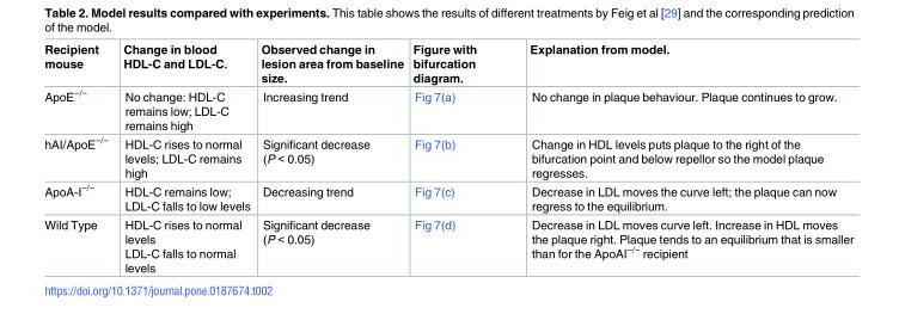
<table><thead><tr><td>Recipient mouse</td><td>Change in blood HDL-C and LDL-C.</td><td>Observed change in lesion area from baseline size.</td><td>Figure with bifurcation diagram.</td><td>Explanation from model.</td></tr></thead><tbody><tr><td>ApoE<sup>−/−</sup></td><td>No change: HDL-C remains low; LDL-C remains high</td><td>Increasing trend</td><td>Fig 7(a)</td><td>No change in plaque behaviour. Plaque continues to grow.</td></tr><tr><td>hAI/ApoE<sup>−/−</sup></td><td>HDL-C rises to normal levels; LDL-C remains high</td><td>Significant decrease (P &lt; 0.05)</td><td>Fig 7(b)</td><td>Change in HDL levels puts plaque to the right of the bifurcation point and below repellor so the model plaque regresses.</td></tr><tr><td>ApoA-I<sup>−/−</sup></td><td>HDL-C remains low; LDL-C falls to low levels</td><td>Decreasing trend</td><td>Fig 7(c)</td><td>Decrease in LDL moves the curve left; the plaque can now regress to the equilibrium.</td></tr><tr><td>Wild Type</td><td>HDL-C rises to normal levels LDL-C falls to normal levels</td><td>Significant decrease (P &lt; 0.05)</td><td>Fig 7(d)</td><td>Decrease in LDL moves curve left. Increase in HDL moves the plaque right. Plaque tends to an equilibrium that is smaller than for the ApoAI<sup>−/−</sup> recipient</td></tr></tbody></table>